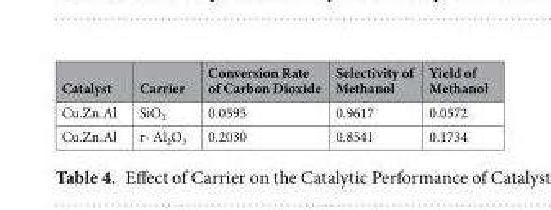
<table><thead><tr><td>Catalyst</td><td>Carrier</td><td>Conversion Rate of Carbon Dioxide</td><td>Selectivity of Methanol</td><td>Yield of Methanol</td></tr></thead><tbody><tr><td>Cu.Zn.Al</td><td>SiO<sub>2</sub></td><td>0.0595</td><td>0.9617</td><td>0.0572</td></tr><tr><td>Cu.Zn.Al</td><td>r- Al<sub>2</sub>O<sub>3</sub></td><td>0.2030</td><td>0.8541</td><td>0.1734</td></tr></tbody></table>